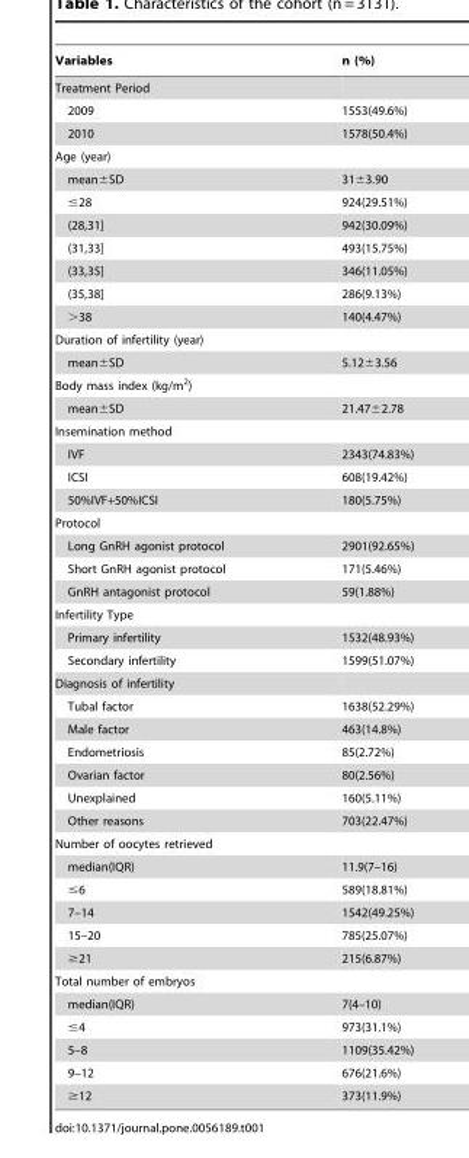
<table><thead><tr><td>Variables</td><td>n (%)</td></tr></thead><tbody><tr><td colspan="2">Treatment Period</td></tr><tr><td>2009</td><td>1553(49.6%)</td></tr><tr><td>2010</td><td>1578(50.4%)</td></tr><tr><td colspan="2">Age (year)</td></tr><tr><td>mean±SD</td><td>31±3.90</td></tr><tr><td>≤28</td><td>924(29.51%)</td></tr><tr><td>(28,31]</td><td>942(30.09%)</td></tr><tr><td>(31,33]</td><td>493(15.75%)</td></tr><tr><td>(33,35]</td><td>346(11.05%)</td></tr><tr><td>(35,38]</td><td>286(9.13%)</td></tr><tr><td>&gt;38</td><td>140(4.47%)</td></tr><tr><td colspan="2">Duration of infertility (year)</td></tr><tr><td>mean±SD</td><td>5.12±3.56</td></tr><tr><td colspan="2">Body mass index (kg/m<sup>2</sup>)</td></tr><tr><td>mean±SD</td><td>21.47±2.78</td></tr><tr><td colspan="2">Insemination method</td></tr><tr><td>IVF</td><td>2343(74.83%)</td></tr><tr><td>ICSI</td><td>608(19.42%)</td></tr><tr><td>50%IVF+50%ICSI</td><td>180(5.75%)</td></tr><tr><td colspan="2">Protocol</td></tr><tr><td>Long GnRH agonist protocol</td><td>2901(92.65%)</td></tr><tr><td>Short GnRH agonist protocol</td><td>171(5.46%)</td></tr><tr><td>GnRH antagonist protocol</td><td>59(1.88%)</td></tr><tr><td colspan="2">Infertility Type</td></tr><tr><td>Primary infertility</td><td>1532(48.93%)</td></tr><tr><td>Secondary infertility</td><td>1599(51.07%)</td></tr><tr><td colspan="2">Diagnosis of infertility</td></tr><tr><td>Tubal factor</td><td>1638(52.29%)</td></tr><tr><td>Male factor</td><td>463(14.8%)</td></tr><tr><td>Endometriosis</td><td>85(2.72%)</td></tr><tr><td>Ovarian factor</td><td>80(2.56%)</td></tr><tr><td>Unexplained</td><td>160(5.11%)</td></tr><tr><td>Other reasons</td><td>703(22.47%)</td></tr><tr><td colspan="2">Number of oocytes retrieved</td></tr><tr><td>median(IQR)</td><td>11.9(7–16)</td></tr><tr><td>≤6</td><td>589(18.81%)</td></tr><tr><td>7–14</td><td>1542(49.25%)</td></tr><tr><td>15–20</td><td>785(25.07%)</td></tr><tr><td>≥21</td><td>215(6.87%)</td></tr><tr><td colspan="2">Total number of embryos</td></tr><tr><td>median(IQR)</td><td>7(4–10)</td></tr><tr><td>≤4</td><td>973(31.1%)</td></tr><tr><td>5–8</td><td>1109(35.42%)</td></tr><tr><td>9–12</td><td>676(21.6%)</td></tr><tr><td>≥12</td><td>373(11.9%)</td></tr></tbody></table>